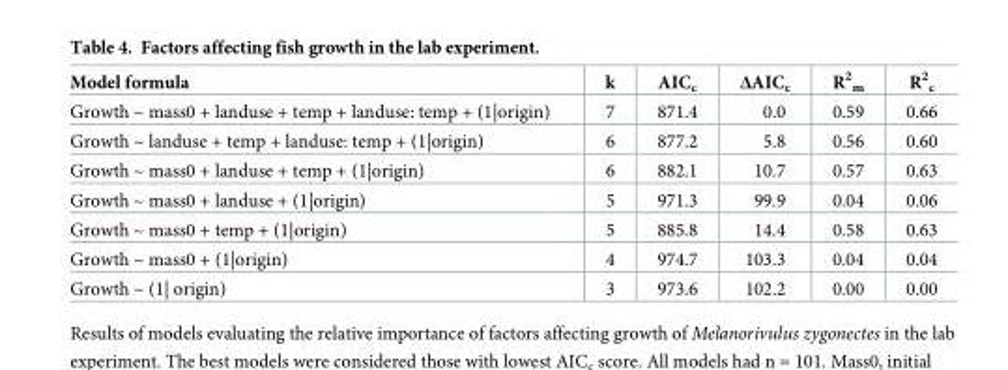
<table><thead><tr><td>Model formula</td><td>k</td><td>AIC<sub>c</sub></td><td>ΔAIC<sub>c</sub></td><td>R<sup>2</sup> <sub>m</sub></td><td>R<sup>2</sup> <sub>c</sub></td></tr></thead><tbody><tr><td>Growth ~ mass0 + landuse + temp + landuse: temp + (1|origin)</td><td>7</td><td>871.4</td><td>0.0</td><td>0.59</td><td>0.66</td></tr><tr><td>Growth ~ landuse + temp + landuse: temp + (1|origin)</td><td>6</td><td>877.2</td><td>5.8</td><td>0.56</td><td>0.60</td></tr><tr><td>Growth ~ mass0 + landuse + temp + (1|origin)</td><td>6</td><td>882.1</td><td>10.7</td><td>0.57</td><td>0.63</td></tr><tr><td>Growth ~ mass0 + landuse + (1|origin)</td><td>5</td><td>971.3</td><td>99.9</td><td>0.04</td><td>0.06</td></tr><tr><td>Growth ~ mass0 + temp + (1|origin)</td><td>5</td><td>885.8</td><td>14.4</td><td>0.58</td><td>0.63</td></tr><tr><td>Growth ~ mass0 + (1|origin)</td><td>4</td><td>974.7</td><td>103.3</td><td>0.04</td><td>0.04</td></tr><tr><td>Growth ~ (1| origin)</td><td>3</td><td>973.6</td><td>102.2</td><td>0.00</td><td>0.00</td></tr></tbody></table>